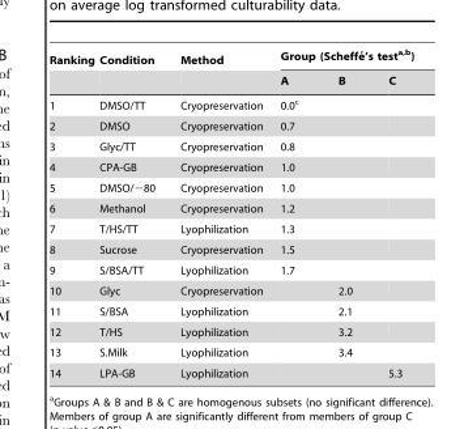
<table><thead><tr><td rowspan="2">Ranking</td><td rowspan="2">Condition</td><td rowspan="2">Method</td><td colspan="3">Group (Scheffe´’s testa,b)</td></tr><tr><td>A</td><td>B</td><td>C</td></tr></thead><tbody><tr><td>1</td><td>DMSO/TT</td><td>Cryopreservation</td><td>0.0<sup>c</sup></td><td></td><td></td></tr><tr><td>2</td><td>DMSO</td><td>Cryopreservation</td><td>0.7</td><td></td><td></td></tr><tr><td>3</td><td>Glyc/TT</td><td>Cryopreservation</td><td>0.8</td><td></td><td></td></tr><tr><td>4</td><td>CPA-GB</td><td>Cryopreservation</td><td>1.0</td><td></td><td></td></tr><tr><td>5</td><td>DMSO/−80</td><td>Cryopreservation</td><td>1.0</td><td></td><td></td></tr><tr><td>6</td><td>Methanol</td><td>Cryopreservation</td><td>1.2</td><td></td><td></td></tr><tr><td>7</td><td>T/HS/TT</td><td>Lyophilization</td><td>1.3</td><td></td><td></td></tr><tr><td>8</td><td>Sucrose</td><td>Cryopreservation</td><td>1.5</td><td></td><td></td></tr><tr><td>9</td><td>S/BSA/TT</td><td>Lyophilization</td><td>1.7</td><td></td><td></td></tr><tr><td>10</td><td>Glyc</td><td>Cryopreservation</td><td></td><td>2.0</td><td></td></tr><tr><td>11</td><td>S/BSA</td><td>Lyophilization</td><td></td><td>2.1</td><td></td></tr><tr><td>12</td><td>T/HS</td><td>Lyophilization</td><td></td><td>3.2</td><td></td></tr><tr><td>13</td><td>S.Milk</td><td>Lyophilization</td><td></td><td>3.4</td><td></td></tr><tr><td>14</td><td>LPA-GB</td><td>Lyophilization</td><td></td><td></td><td>5.3</td></tr></tbody></table>